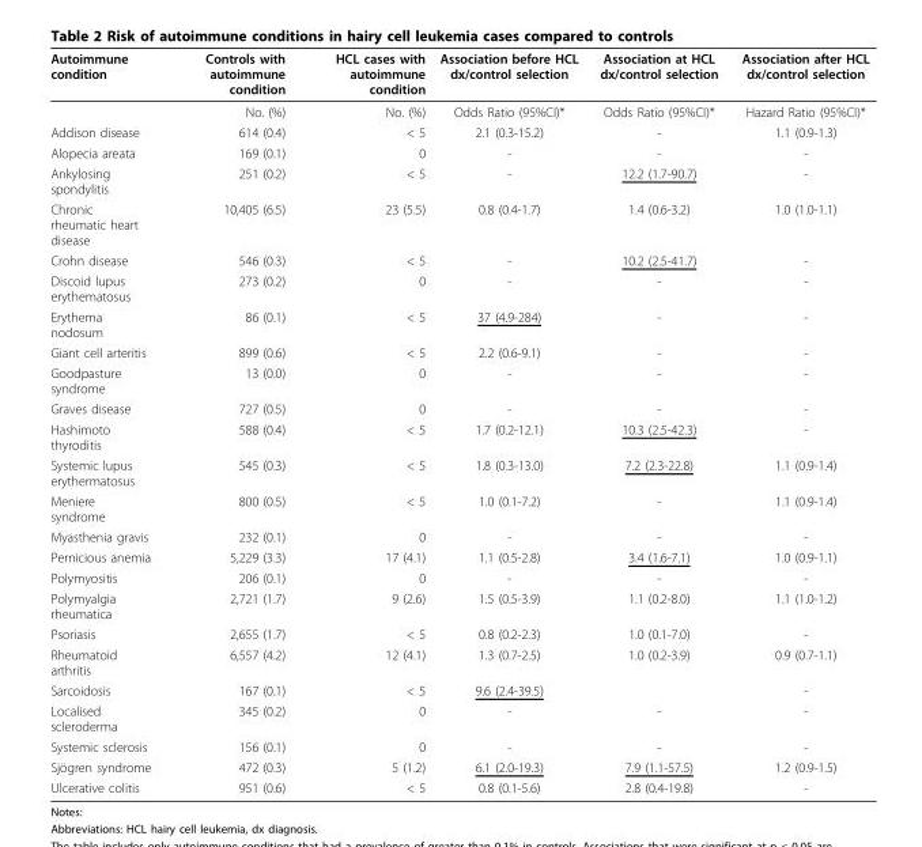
<table><thead><tr><td>Autoimmune condition</td><td>Controls with autoimmune condition</td><td>HCL cases with autoimmune condition</td><td>Association before HCL dx/control selection</td><td>Association at HCL dx/control selection</td><td>Association after HCL dx/control selection</td></tr></thead><tbody><tr><td></td><td>No. (%)</td><td>No. (%)</td><td>Odds Ratio (95%CI)*</td><td>Odds Ratio (95%CI)*</td><td>Hazard Ratio (95%CI)*</td></tr><tr><td>Addison disease</td><td>614 (0.4)</td><td>&lt; 5</td><td>2.1 (0.3-15.2)</td><td>-</td><td>1.1 (0.9-1.3)</td></tr><tr><td>Alopecia areata</td><td>169 (0.1)</td><td>0</td><td>-</td><td>-</td><td>-</td></tr><tr><td>Ankylosing spondylitis</td><td>251 (0.2)</td><td>&lt; 5</td><td>-</td><td>12.2 (1.7-90.7)</td><td>-</td></tr><tr><td>Chronic rheumatic heart disease</td><td>10,405 (6.5)</td><td>23 (5.5)</td><td>0.8 (0.4-1.7)</td><td>1.4 (0.6-3.2)</td><td>1.0 (1.0-1.1)</td></tr><tr><td>Crohn disease</td><td>546 (0.3)</td><td>&lt; 5</td><td>-</td><td>10.2 (2.5-41.7)</td><td>-</td></tr><tr><td>Discoid lupus erythematosus</td><td>273 (0.2)</td><td>0</td><td>-</td><td>-</td><td>-</td></tr><tr><td>Erythema nodosum</td><td>86 (0.1)</td><td>&lt; 5</td><td>37 (4.9-284)</td><td>-</td><td>-</td></tr><tr><td>Giant cell arteritis</td><td>899 (0.6)</td><td>&lt; 5</td><td>2.2 (0.6-9.1)</td><td>-</td><td>-</td></tr><tr><td>Goodpasture syndrome</td><td>13 (0.0)</td><td>0</td><td>-</td><td>-</td><td>-</td></tr><tr><td>Graves disease</td><td>727 (0.5)</td><td>0</td><td>-</td><td>-</td><td>-</td></tr><tr><td>Hashimoto thyroditis</td><td>588 (0.4)</td><td>&lt; 5</td><td>1.7 (0.2-12.1)</td><td>10.3 (2.5-42.3)</td><td>-</td></tr><tr><td>Systemic lupus erythermatosus</td><td>545 (0.3)</td><td>&lt; 5</td><td>1.8 (0.3-13.0)</td><td>7.2 (2.3-22.8)</td><td>1.1 (0.9-1.4)</td></tr><tr><td>Meniere syndrome</td><td>800 (0.5)</td><td>&lt; 5</td><td>1.0 (0.1-7.2)</td><td>-</td><td>1.1 (0.9-1.4)</td></tr><tr><td>Myasthenia gravis</td><td>232 (0.1)</td><td>0</td><td>-</td><td>-</td><td>-</td></tr><tr><td>Pernicious anemia</td><td>5,229 (3.3)</td><td>17 (4.1)</td><td>1.1 (0.5-2.8)</td><td>3.4 (1.6-7.1)</td><td>1.0 (0.9-1.1)</td></tr><tr><td>Polymyositis</td><td>206 (0.1)</td><td>0</td><td>-</td><td>-</td><td>-</td></tr><tr><td>Polymyalgia rheumatica</td><td>2,721 (1.7)</td><td>9 (2.6)</td><td>1.5 (0.5-3.9)</td><td>1.1 (0.2-8.0)</td><td>1.1 (1.0-1.2)</td></tr><tr><td>Psoriasis</td><td>2,655 (1.7)</td><td>&lt; 5</td><td>0.8 (0.2-2.3)</td><td>1.0 (0.1-7.0)</td><td>-</td></tr><tr><td>Rheumatoid arthritis</td><td>6,557 (4.2)</td><td>12 (4.1)</td><td>1.3 (0.7-2.5)</td><td>1.0 (0.2-3.9)</td><td>0.9 (0.7-1.1)</td></tr><tr><td>Sarcoidosis</td><td>167 (0.1)</td><td>&lt; 5</td><td>9.6 (2.4-39.5)</td><td></td><td>-</td></tr><tr><td>Localised scleroderma</td><td>345 (0.2)</td><td>0</td><td>-</td><td>-</td><td>-</td></tr><tr><td>Systemic sclerosis</td><td>156 (0.1)</td><td>0</td><td>-</td><td>-</td><td>-</td></tr><tr><td>Sjögren syndrome</td><td>472 (0.3)</td><td>5 (1.2)</td><td>6.1 (2.0-19.3)</td><td>7.9 (1.1-57.5)</td><td>1.2 (0.9-1.5)</td></tr><tr><td>Ulcerative colitis</td><td>951 (0.6)</td><td>&lt; 5</td><td>0.8 (0.1-5.6)</td><td>2.8 (0.4-19.8)</td><td>-</td></tr></tbody></table>